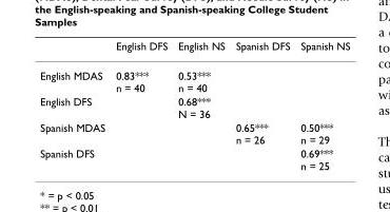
<table><thead><tr><td></td><td>English DFS</td><td>English NS</td><td>Spanish DFS</td><td>Spanish NS</td></tr></thead><tbody><tr><td>English MDAS</td><td>0.83*** n = 40</td><td>0.53*** n = 40</td><td></td><td></td></tr><tr><td>English DFS</td><td></td><td>0.68*** N = 36</td><td></td><td></td></tr><tr><td>Spanish MDAS</td><td></td><td></td><td>0.65*** n = 26</td><td>0.50*** n = 29</td></tr><tr><td>Spanish DFS</td><td></td><td></td><td></td><td>0.69*** n = 25</td></tr></tbody></table>